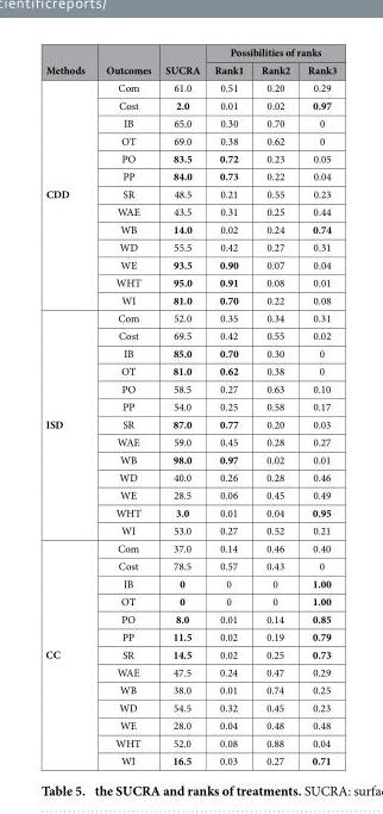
<table><thead><tr><td rowspan="2">Methods</td><td rowspan="2">Outcomes</td><td rowspan="2">SUCRA</td><td colspan="3">Possibilities of ranks</td></tr><tr><td>Rank1</td><td>Rank2</td><td>Rank3</td></tr></thead><tbody><tr><td rowspan="13">CDD</td><td>Com</td><td>61.0</td><td>0.51</td><td>0.20</td><td>0.29</td></tr><tr><td>Cost</td><td>2.0</td><td>0.01</td><td>0.02</td><td>0.97</td></tr><tr><td>IB</td><td>65.0</td><td>0.30</td><td>0.70</td><td>0</td></tr><tr><td>OT</td><td>69.0</td><td>0.38</td><td>0.62</td><td>0</td></tr><tr><td>PO</td><td>83.5</td><td>0.72</td><td>0.23</td><td>0.05</td></tr><tr><td>PP</td><td>84.0</td><td>0.73</td><td>0.22</td><td>0.04</td></tr><tr><td>SR</td><td>48.5</td><td>0.21</td><td>0.55</td><td>0.23</td></tr><tr><td>WAE</td><td>43.5</td><td>0.31</td><td>0.25</td><td>0.44</td></tr><tr><td>WB</td><td>14.0</td><td>0.02</td><td>0.24</td><td>0.74</td></tr><tr><td>WD</td><td>55.5</td><td>0.42</td><td>0.27</td><td>0.31</td></tr><tr><td>WE</td><td>93.5</td><td>0.90</td><td>0.07</td><td>0.04</td></tr><tr><td>WHT</td><td>95.0</td><td>0.91</td><td>0.08</td><td>0.01</td></tr><tr><td>WI</td><td>81.0</td><td>0.70</td><td>0.22</td><td>0.08</td></tr><tr><td rowspan="13">ISD</td><td>Com</td><td>52.0</td><td>0.35</td><td>0.34</td><td>0.31</td></tr><tr><td>Cost</td><td>69.5</td><td>0.42</td><td>0.55</td><td>0.02</td></tr><tr><td>IB</td><td>85.0</td><td>0.70</td><td>0.30</td><td>0</td></tr><tr><td>OT</td><td>81.0</td><td>0.62</td><td>0.38</td><td>0</td></tr><tr><td>PO</td><td>58.5</td><td>0.27</td><td>0.63</td><td>0.10</td></tr><tr><td>PP</td><td>54.0</td><td>0.25</td><td>0.58</td><td>0.17</td></tr><tr><td>SR</td><td>87.0</td><td>0.77</td><td>0.20</td><td>0.03</td></tr><tr><td>WAE</td><td>59.0</td><td>0.45</td><td>0.28</td><td>0.27</td></tr><tr><td>WB</td><td>98.0</td><td>0.97</td><td>0.02</td><td>0.01</td></tr><tr><td>WD</td><td>40.0</td><td>0.26</td><td>0.28</td><td>0.46</td></tr><tr><td>WE</td><td>28.5</td><td>0.06</td><td>0.45</td><td>0.49</td></tr><tr><td>WHT</td><td>3.0</td><td>0.01</td><td>0.04</td><td>0.95</td></tr><tr><td>WI</td><td>53.0</td><td>0.27</td><td>0.52</td><td>0.21</td></tr><tr><td rowspan="13">CC</td><td>Com</td><td>37.0</td><td>0.14</td><td>0.46</td><td>0.40</td></tr><tr><td>Cost</td><td>78.5</td><td>0.57</td><td>0.43</td><td>0</td></tr><tr><td>IB</td><td>0</td><td>0</td><td>0</td><td>1.00</td></tr><tr><td>OT</td><td>0</td><td>0</td><td>0</td><td>1.00</td></tr><tr><td>PO</td><td>8.0</td><td>0.01</td><td>0.14</td><td>0.85</td></tr><tr><td>PP</td><td>11.5</td><td>0.02</td><td>0.19</td><td>0.79</td></tr><tr><td>SR</td><td>14.5</td><td>0.02</td><td>0.25</td><td>0.73</td></tr><tr><td>WAE</td><td>47.5</td><td>0.24</td><td>0.47</td><td>0.29</td></tr><tr><td>WB</td><td>38.0</td><td>0.01</td><td>0.74</td><td>0.25</td></tr><tr><td>WD</td><td>54.5</td><td>0.32</td><td>0.45</td><td>0.23</td></tr><tr><td>WE</td><td>28.0</td><td>0.04</td><td>0.48</td><td>0.48</td></tr><tr><td>WHT</td><td>52.0</td><td>0.08</td><td>0.88</td><td>0.04</td></tr><tr><td>WI</td><td>16.5</td><td>0.03</td><td>0.27</td><td>0.71</td></tr></tbody></table>